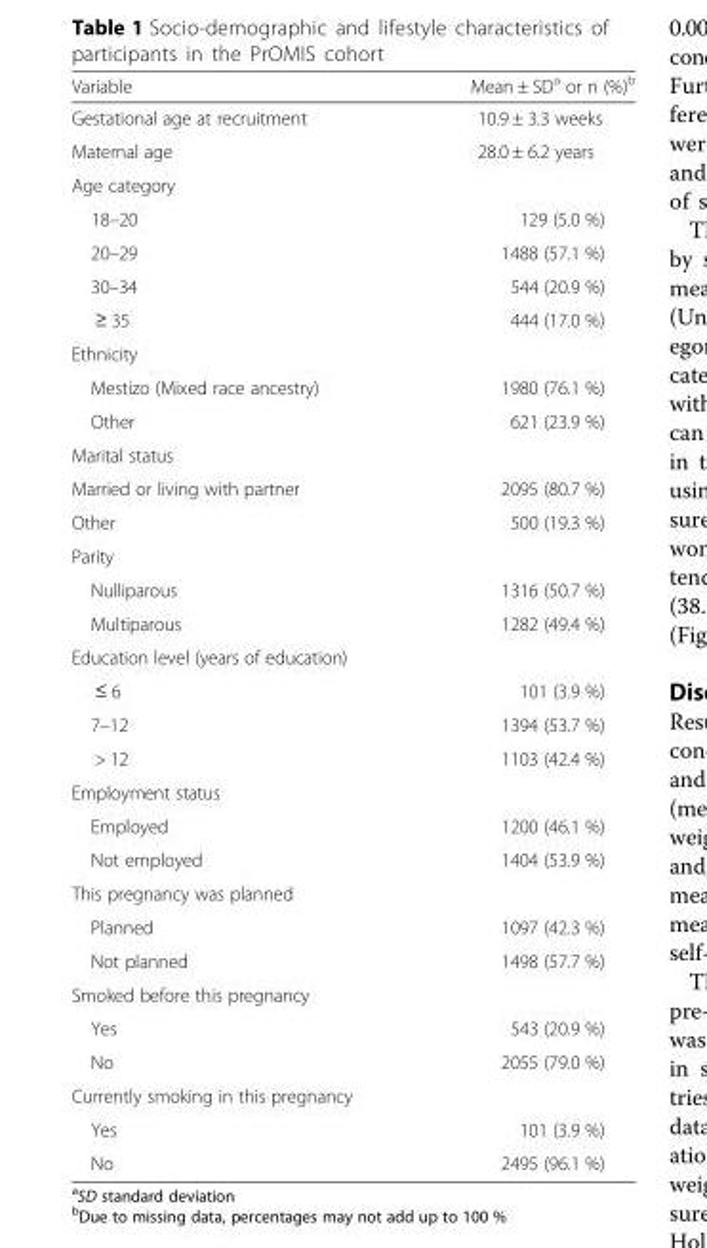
<table><thead><tr><td>Variable</td><td>Mean ± SD<sup>a</sup> or n (%)<sup>b</sup></td></tr></thead><tbody><tr><td>Gestational age at recruitment</td><td>10.9 ± 3.3 weeks</td></tr><tr><td>Maternal age</td><td>28.0 ± 6.2 years</td></tr><tr><td colspan="2">Age category</td></tr><tr><td>18–20</td><td>129 (5.0 %)</td></tr><tr><td>20–29</td><td>1488 (57.1 %)</td></tr><tr><td>30–34</td><td>544 (20.9 %)</td></tr><tr><td>≥ 35</td><td>444 (17.0 %)</td></tr><tr><td colspan="2">Ethnicity</td></tr><tr><td>Mestizo (Mixed race ancestry)</td><td>1980 (76.1 %)</td></tr><tr><td>Other</td><td>621 (23.9 %)</td></tr><tr><td colspan="2">Marital status</td></tr><tr><td>Married or living with partner</td><td>2095 (80.7 %)</td></tr><tr><td>Other</td><td>500 (19.3 %)</td></tr><tr><td colspan="2">Parity</td></tr><tr><td>Nulliparous</td><td>1316 (50.7 %)</td></tr><tr><td>Multiparous</td><td>1282 (49.4 %)</td></tr><tr><td colspan="2">Education level (years of education)</td></tr><tr><td>≤ 6</td><td>101 (3.9 %)</td></tr><tr><td>7–12</td><td>1394 (53.7 %)</td></tr><tr><td>&gt; 12</td><td>1103 (42.4 %)</td></tr><tr><td colspan="2">Employment status</td></tr><tr><td>Employed</td><td>1200 (46.1 %)</td></tr><tr><td>Not employed</td><td>1404 (53.9 %)</td></tr><tr><td colspan="2">This pregnancy was planned</td></tr><tr><td>Planned</td><td>1097 (42.3 %)</td></tr><tr><td>Not planned</td><td>1498 (57.7 %)</td></tr><tr><td colspan="2">Smoked before this pregnancy</td></tr><tr><td>Yes</td><td>543 (20.9 %)</td></tr><tr><td>No</td><td>2055 (79.0 %)</td></tr><tr><td colspan="2">Currently smoking in this pregnancy</td></tr><tr><td>Yes</td><td>101 (3.9 %)</td></tr><tr><td>No</td><td>2495 (96.1 %)</td></tr></tbody></table>